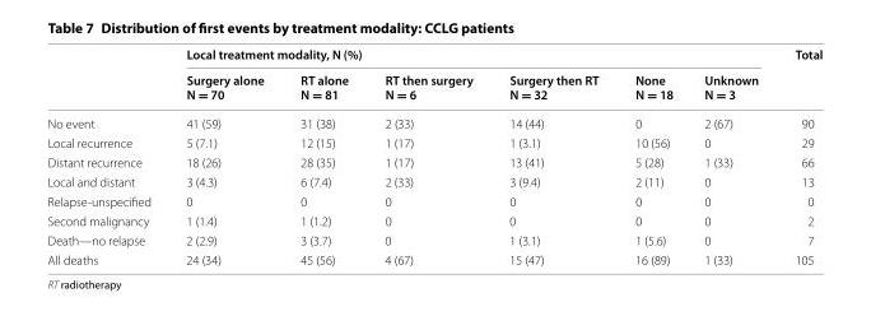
<table><thead><tr><td rowspan="2"></td><td colspan="6">Local treatment modality, N (%)</td><td rowspan="2">Total</td></tr><tr><td>Surgery alone N = 70</td><td>RT alone N = 81</td><td>RT then surgery N = 6</td><td>Surgery then RT N = 32</td><td>None N = 18</td><td>Unknown N = 3</td></tr></thead><tbody><tr><td>No event</td><td>41 (59)</td><td>31 (38)</td><td>2 (33)</td><td>14 (44)</td><td>0</td><td>2 (67)</td><td>90</td></tr><tr><td>Local recurrence</td><td>5 (7.1)</td><td>12 (15)</td><td>1 (17)</td><td>1 (3.1)</td><td>10 (56)</td><td>0</td><td>29</td></tr><tr><td>Distant recurrence</td><td>18 (26)</td><td>28 (35)</td><td>1 (17)</td><td>13 (41)</td><td>5 (28)</td><td>1 (33)</td><td>66</td></tr><tr><td>Local and distant</td><td>3 (4.3)</td><td>6 (7.4)</td><td>2 (33)</td><td>3 (9.4)</td><td>2 (11)</td><td>0</td><td>13</td></tr><tr><td>Relapse-unspecified</td><td>0</td><td>0</td><td>0</td><td>0</td><td>0</td><td>0</td><td>0</td></tr><tr><td>Second malignancy</td><td>1 (1.4)</td><td>1 (1.2)</td><td>0</td><td>0</td><td>0</td><td>0</td><td>2</td></tr><tr><td>Death—no relapse</td><td>2 (2.9)</td><td>3 (3.7)</td><td>0</td><td>1 (3.1)</td><td>1 (5.6)</td><td>0</td><td>7</td></tr><tr><td>All deaths</td><td>24 (34)</td><td>45 (56)</td><td>4 (67)</td><td>15 (47)</td><td>16 (89)</td><td>1 (33)</td><td>105</td></tr></tbody></table>